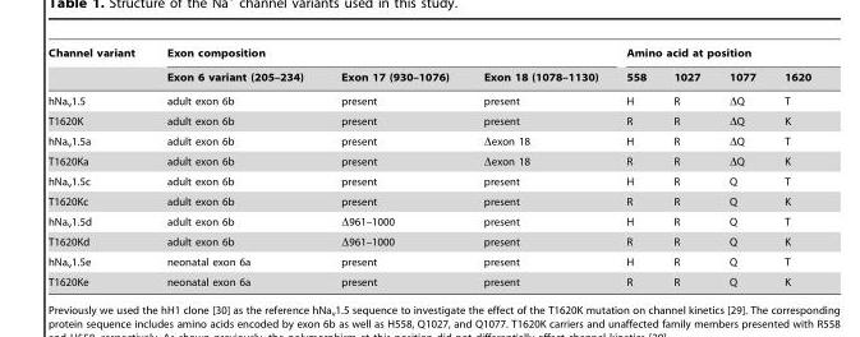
<table><thead><tr><td rowspan="2">Channel variant</td><td colspan="3">Exon composition</td><td colspan="4">Amino acid at position</td></tr><tr><td>Exon 6 variant (205–234)</td><td>Exon 17 (930–1076)</td><td>Exon 18 (1078–1130)</td><td>558</td><td>1027</td><td>1077</td><td>1620</td></tr></thead><tbody><tr><td>hNa<sub>v</sub>1.5</td><td>adult exon 6b</td><td>present</td><td>present</td><td>H</td><td>R</td><td>ΔQ</td><td>T</td></tr><tr><td>T1620K</td><td>adult exon 6b</td><td>present</td><td>present</td><td>R</td><td>R</td><td>ΔQ</td><td>K</td></tr><tr><td>hNa<sub>v</sub>1.5a</td><td>adult exon 6b</td><td>present</td><td>Δexon 18</td><td>H</td><td>R</td><td>ΔQ</td><td>T</td></tr><tr><td>T1620Ka</td><td>adult exon 6b</td><td>present</td><td>Δexon 18</td><td>R</td><td>R</td><td>ΔQ</td><td>K</td></tr><tr><td>hNa<sub>v</sub>1.5c</td><td>adult exon 6b</td><td>present</td><td>present</td><td>H</td><td>R</td><td>Q</td><td>T</td></tr><tr><td>T1620Kc</td><td>adult exon 6b</td><td>present</td><td>present</td><td>R</td><td>R</td><td>Q</td><td>K</td></tr><tr><td>hNa<sub>v</sub>1.5d</td><td>adult exon 6b</td><td>Δ961–1000</td><td>present</td><td>H</td><td>R</td><td>Q</td><td>T</td></tr><tr><td>T1620Kd</td><td>adult exon 6b</td><td>Δ961–1000</td><td>present</td><td>R</td><td>R</td><td>Q</td><td>K</td></tr><tr><td>hNa<sub>v</sub>1.5e</td><td>neonatal exon 6a</td><td>present</td><td>present</td><td>H</td><td>R</td><td>Q</td><td>T</td></tr><tr><td>T1620Ke</td><td>neonatal exon 6a</td><td>present</td><td>present</td><td>R</td><td>R</td><td>Q</td><td>K</td></tr></tbody></table>